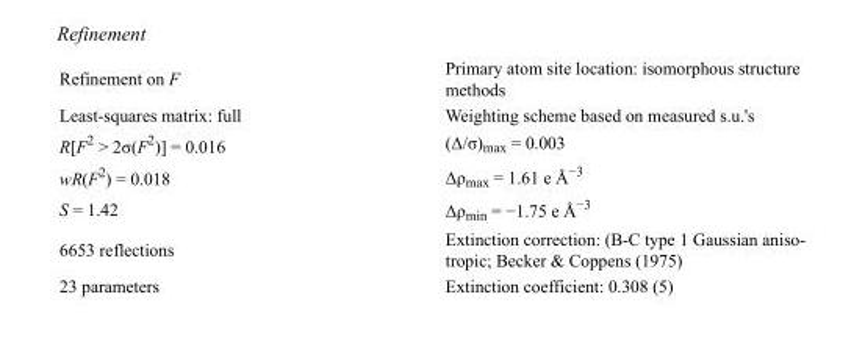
<table><tbody><tr><td>Refinement on F</td><td>Primary atom site location: isomorphous structure methods</td></tr><tr><td>Least-squares matrix: full</td><td>Weighting scheme based on measured s.u.&#x27;s</td></tr><tr><td>R[F<sup>2</sup> &gt; 2σ(F<sup>2</sup>)] = 0.016</td><td>(Δ/σ)<sub>max</sub> = 0.003</td></tr><tr><td>wR(F<sup>2</sup>) = 0.018</td><td>Δρ<sub>max</sub> = 1.61 e Å<sup>−3</sup></td></tr><tr><td>S = 1.42</td><td>Δρ<sub>min</sub> = −1.75 e Å<sup>−3</sup></td></tr><tr><td>6653 reflections</td><td>Extinction correction: (B-C type 1 Gaussian aniso- tropic; Becker &amp; Coppens (1975)</td></tr><tr><td>23 parameters</td><td>Extinction coefficient: 0.308 (5)</td></tr></tbody></table>